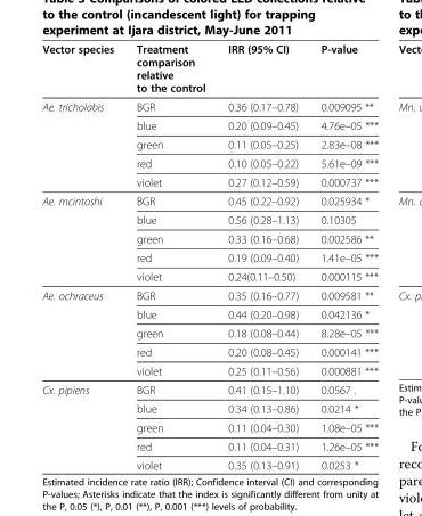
<table><thead><tr><td>Vector species</td><td>Treatment comparison relative to the control</td><td>IRR (95% CI)</td><td>P-value</td></tr></thead><tbody><tr><td rowspan="5">Ae. tricholabis</td><td>BGR</td><td>0.36 (0.17–0.78)</td><td>0.009095 **</td></tr><tr><td>blue</td><td>0.20 (0.09–0.45)</td><td>4.76e–05 ***</td></tr><tr><td>green</td><td>0.11 (0.05–0.25)</td><td>2.83e–08 ***</td></tr><tr><td>red</td><td>0.10 (0.05–0.22)</td><td>5.61e–09 ***</td></tr><tr><td>violet</td><td>0.27 (0.12–0.59)</td><td>0.000737 ***</td></tr><tr><td rowspan="5">Ae. mcintoshi</td><td>BGR</td><td>0.45 (0.22–0.92)</td><td>0.025934 *</td></tr><tr><td>blue</td><td>0.56 (0.28–1.13)</td><td>0.10305</td></tr><tr><td>green</td><td>0.33 (0.16–0.68)</td><td>0.002586 **</td></tr><tr><td>red</td><td>0.19 (0.09–0.40)</td><td>1.41e–05 ***</td></tr><tr><td>violet</td><td>0.24(0.11–0.50)</td><td>0.000115 ***</td></tr><tr><td rowspan="5">Ae. ochraceus</td><td>BGR</td><td>0.35 (0.16–0.77)</td><td>0.009581 **</td></tr><tr><td>blue</td><td>0.44 (0.20–0.98)</td><td>0.042136 *</td></tr><tr><td>green</td><td>0.18 (0.08–0.44)</td><td>8.28e–05 ***</td></tr><tr><td>red</td><td>0.20 (0.08–0.45)</td><td>0.000141 ***</td></tr><tr><td>violet</td><td>0.25 (0.11–0.56)</td><td>0.000881 ***</td></tr><tr><td rowspan="5">Cx. pipiens</td><td>BGR</td><td>0.41 (0.15–1.10)</td><td>0.0567 .</td></tr><tr><td>blue</td><td>0.34 (0.13–0.86)</td><td>0.0214 *</td></tr><tr><td>green</td><td>0.11 (0.04–0.30)</td><td>1.08e–05 ***</td></tr><tr><td>red</td><td>0.11 (0.04–0.31)</td><td>1.26e–05 ***</td></tr><tr><td>violet</td><td>0.35 (0.13–0.91)</td><td>0.0253 *</td></tr></tbody></table>